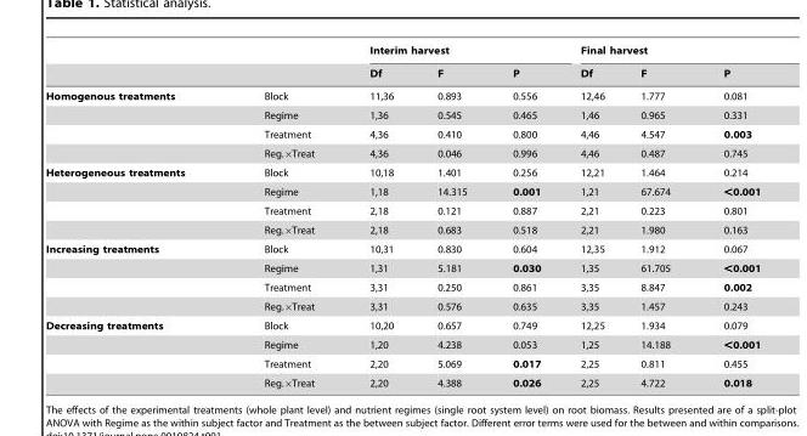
<table><thead><tr><td rowspan="2"></td><td rowspan="2"></td><td colspan="3">Interim harvest</td><td colspan="3">Final harvest</td></tr><tr><td>Df</td><td>F</td><td>P</td><td>Df</td><td>F</td><td>P</td></tr></thead><tbody><tr><td rowspan="4">Homogenous treatments</td><td>Block</td><td>11,36</td><td>0.893</td><td>0.556</td><td>12,46</td><td>1.777</td><td>0.081</td></tr><tr><td>Regime</td><td>1,36</td><td>0.545</td><td>0.465</td><td>1,46</td><td>0.965</td><td>0.331</td></tr><tr><td>Treatment</td><td>4,36</td><td>0.410</td><td>0.800</td><td>4,46</td><td>4.547</td><td>0.003</td></tr><tr><td>Reg.×Treat</td><td>4,36</td><td>0.046</td><td>0.996</td><td>4,46</td><td>0.487</td><td>0.745</td></tr><tr><td rowspan="4">Heterogeneous treatments</td><td>Block</td><td>10,18</td><td>1.401</td><td>0.256</td><td>12,21</td><td>1.464</td><td>0.214</td></tr><tr><td>Regime</td><td>1,18</td><td>14.315</td><td>0.001</td><td>1,21</td><td>67.674</td><td>&lt;0.001</td></tr><tr><td>Treatment</td><td>2,18</td><td>0.121</td><td>0.887</td><td>2,21</td><td>0.223</td><td>0.801</td></tr><tr><td>Reg.×Treat</td><td>2,18</td><td>0.683</td><td>0.518</td><td>2,21</td><td>1.980</td><td>0.163</td></tr><tr><td rowspan="4">Increasing treatments</td><td>Block</td><td>10,31</td><td>0.830</td><td>0.604</td><td>12,35</td><td>1.912</td><td>0.067</td></tr><tr><td>Regime</td><td>1,31</td><td>5.181</td><td>0.030</td><td>1,35</td><td>61.705</td><td>&lt;0.001</td></tr><tr><td>Treatment</td><td>3,31</td><td>0.250</td><td>0.861</td><td>3,35</td><td>8.847</td><td>0.002</td></tr><tr><td>Reg.×Treat</td><td>3,31</td><td>0.576</td><td>0.635</td><td>3,35</td><td>1.457</td><td>0.243</td></tr><tr><td rowspan="4">Decreasing treatments</td><td>Block</td><td>10,20</td><td>0.657</td><td>0.749</td><td>12,25</td><td>1.934</td><td>0.079</td></tr><tr><td>Regime</td><td>1,20</td><td>4.238</td><td>0.053</td><td>1,25</td><td>14.188</td><td>&lt;0.001</td></tr><tr><td>Treatment</td><td>2,20</td><td>5.069</td><td>0.017</td><td>2,25</td><td>0.811</td><td>0.455</td></tr><tr><td>Reg.×Treat</td><td>2,20</td><td>4.388</td><td>0.026</td><td>2,25</td><td>4.722</td><td>0.018</td></tr></tbody></table>